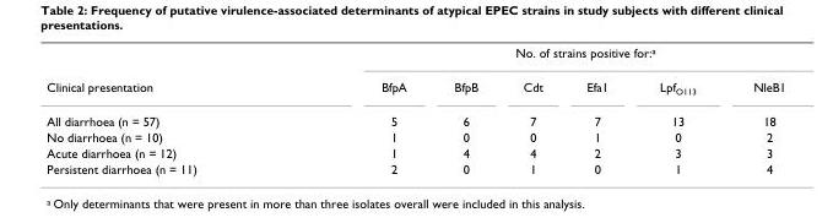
<table><thead><tr><td rowspan="2">Clinical presentation</td><td colspan="6">No. of strains positive for:<sup>a</sup></td></tr><tr><td>BfpA</td><td>BfpB</td><td>Cdt</td><td>Efa1</td><td>Lpf<sub>O113</sub></td><td>NleB1</td></tr></thead><tbody><tr><td>All diarrhoea (n = 57)</td><td>5</td><td>6</td><td>7</td><td>7</td><td>13</td><td>18</td></tr><tr><td>No diarrhoea (n = 10)</td><td>1</td><td>0</td><td>0</td><td>1</td><td>0</td><td>2</td></tr><tr><td>Acute diarrhoea (n = 12)</td><td>1</td><td>4</td><td>4</td><td>2</td><td>3</td><td>3</td></tr><tr><td>Persistent diarrhoea (n = 11)</td><td>2</td><td>0</td><td>1</td><td>0</td><td>1</td><td>4</td></tr></tbody></table>